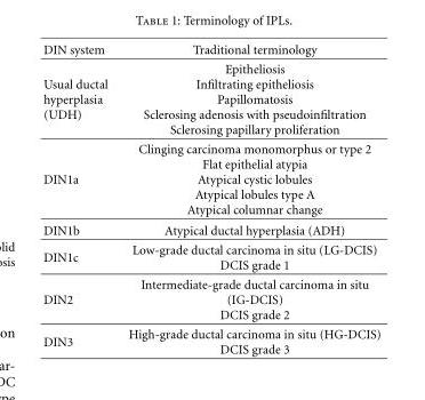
<table><thead><tr><td>DIN system</td><td>Traditional terminology</td></tr></thead><tbody><tr><td>Usual ductal hyperplasia (UDH)</td><td>Epitheliosis Infiltrating epitheliosis Papillomatosis Sclerosing adenosis with pseudoinfiltration Sclerosing papillary proliferation</td></tr><tr><td>DIN1a</td><td>Clinging carcinoma monomorphus or type 2 Flat epithelial atypia Atypical cystic lobules Atypical lobules type A Atypical columnar change</td></tr><tr><td>DIN1b</td><td>Atypical ductal hyperplasia (ADH)</td></tr><tr><td>DIN1c</td><td>Low-grade ductal carcinoma in situ (LG-DCIS) DCIS grade 1</td></tr><tr><td>DIN2</td><td>Intermediate-grade ductal carcinoma in situ (IG-DCIS) DCIS grade 2</td></tr><tr><td>DIN3</td><td>High-grade ductal carcinoma in situ (HG-DCIS) DCIS grade 3</td></tr></tbody></table>